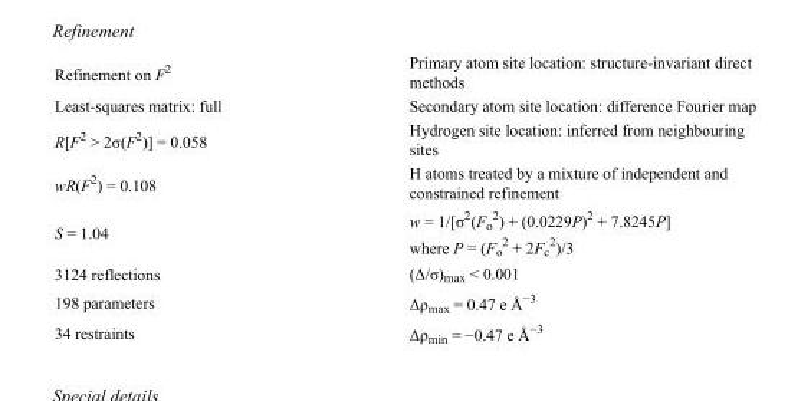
<table><tbody><tr><td>Refinement on F<sup>2</sup></td><td>Primary atom site location: structure-invariant direct methods</td></tr><tr><td>Least-squares matrix: full</td><td>Secondary atom site location: difference Fourier map</td></tr><tr><td>R[F<sup>2</sup> &gt; 2σ(F<sup>2</sup>)] = 0.058</td><td>Hydrogen site location: inferred from neighbouring sites</td></tr><tr><td>wR(F<sup>2</sup>) = 0.108</td><td>H atoms treated by a mixture of independent and constrained refinement</td></tr><tr><td>S = 1.04</td><td>w = 1/[σ<sup>2</sup>(F<sub>o</sub> <sup>2</sup>) + (0.0229P)<sup>2</sup> + 7.8245P] where P = (F<sub>o</sub> <sup>2</sup> + 2F<sub>c</sub> <sup>2</sup>)/3</td></tr><tr><td>3124 reflections</td><td>(Δ/σ)<sub>max</sub> &lt; 0.001</td></tr><tr><td>198 parameters</td><td>Δρ<sub>max</sub> = 0.47 e Å<sup>−3</sup></td></tr><tr><td>34 restraints</td><td>Δρ<sub>min</sub> = −0.47 e Å<sup>−3</sup></td></tr></tbody></table>